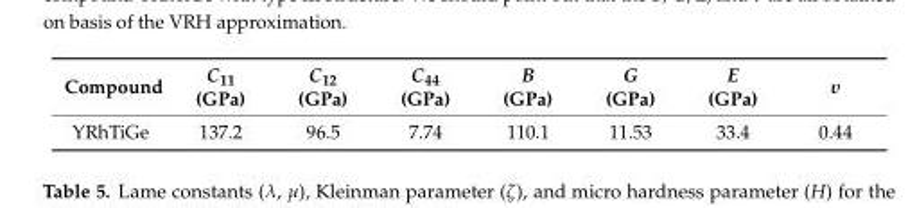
<table><thead><tr><td>Compound</td><td>C<sub>11</sub> (GPa)</td><td>C<sub>12</sub> (GPa)</td><td>C<sub>44</sub> (GPa)</td><td>B (GPa)</td><td>G (GPa)</td><td>E (GPa)</td><td>υ</td></tr></thead><tbody><tr><td>YRhTiGe</td><td>137.2</td><td>96.5</td><td>7.74</td><td>110.1</td><td>11.53</td><td>33.4</td><td>0.44</td></tr></tbody></table>